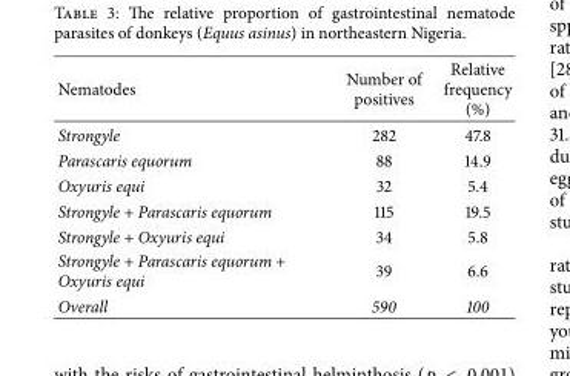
<table><thead><tr><td>Nematodes</td><td>Number of positives</td><td>Relative frequency (%)</td></tr></thead><tbody><tr><td>Strongyle</td><td>282</td><td>47.8</td></tr><tr><td>Parascaris equorum</td><td>88</td><td>14.9</td></tr><tr><td>Oxyuris equi</td><td>32</td><td>5.4</td></tr><tr><td>Strongyle + Parascaris equorum</td><td>115</td><td>19.5</td></tr><tr><td>Strongyle + Oxyuris equi</td><td>34</td><td>5.8</td></tr><tr><td>Strongyle + Parascaris equorum + Oxyuris equi</td><td>39</td><td>6.6</td></tr><tr><td>Overall</td><td>590</td><td>100</td></tr></tbody></table>